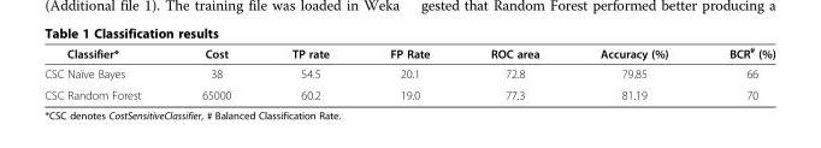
<table><thead><tr><td>Classifier*</td><td>Cost</td><td>TP rate</td><td>FP Rate</td><td>ROC area</td><td>Accuracy (%)</td><td>BCR<sup>#</sup> (%)</td></tr></thead><tbody><tr><td>CSC Naïve Bayes</td><td>38</td><td>54.5</td><td>20.1</td><td>72.8</td><td>79.85</td><td>66</td></tr><tr><td>CSC Random Forest</td><td>65000</td><td>60.2</td><td>19.0</td><td>77.3</td><td>81.19</td><td>70</td></tr></tbody></table>